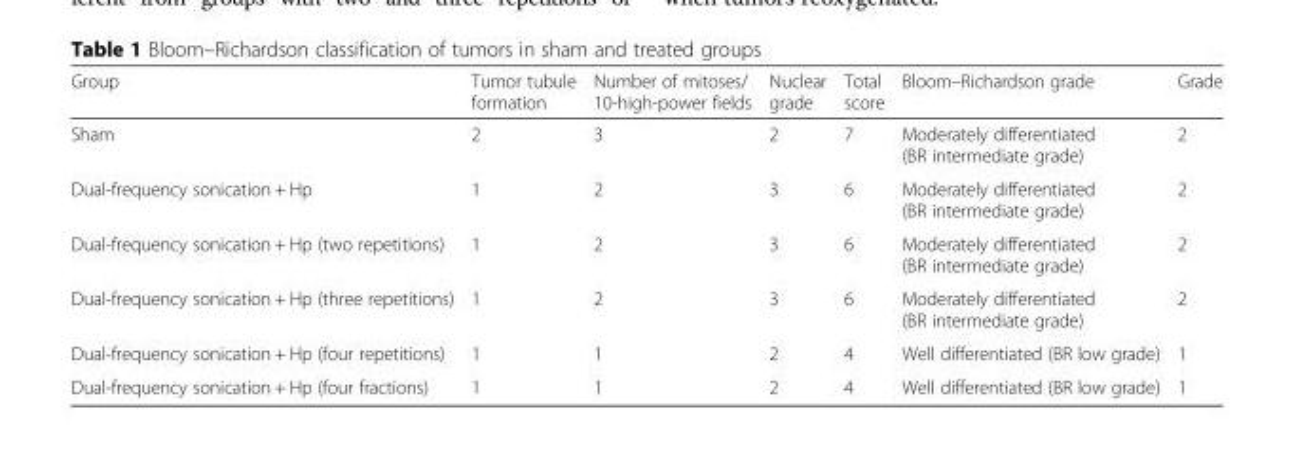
<table><thead><tr><td>Group</td><td>Tumor tubule formation</td><td>Number of mitoses/ 10-high-power fields</td><td>Nuclear grade</td><td>Total score</td><td>Bloom–Richardson grade</td><td>Grade</td></tr></thead><tbody><tr><td>Sham</td><td>2</td><td>3</td><td>2</td><td>7</td><td>Moderately differentiated (BR intermediate grade)</td><td>2</td></tr><tr><td>Dual-frequency sonication + Hp</td><td>1</td><td>2</td><td>3</td><td>6</td><td>Moderately differentiated (BR intermediate grade)</td><td>2</td></tr><tr><td>Dual-frequency sonication + Hp (two repetitions)</td><td>1</td><td>2</td><td>3</td><td>6</td><td>Moderately differentiated (BR intermediate grade)</td><td>2</td></tr><tr><td>Dual-frequency sonication + Hp (three repetitions)</td><td>1</td><td>2</td><td>3</td><td>6</td><td>Moderately differentiated (BR intermediate grade)</td><td>2</td></tr><tr><td>Dual-frequency sonication + Hp (four repetitions)</td><td>1</td><td>1</td><td>2</td><td>4</td><td>Well differentiated (BR low grade)</td><td>1</td></tr><tr><td>Dual-frequency sonication + Hp (four fractions)</td><td>1</td><td>1</td><td>2</td><td>4</td><td>Well differentiated (BR low grade)</td><td>1</td></tr></tbody></table>